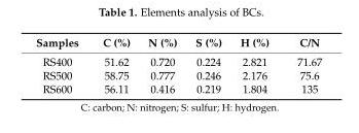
<table><thead><tr><td>Samples</td><td>C (%)</td><td>N (%)</td><td>S (%)</td><td>H (%)</td><td>C/N</td></tr></thead><tbody><tr><td>RS400</td><td>51.62</td><td>0.720</td><td>0.224</td><td>2.821</td><td>71.67</td></tr><tr><td>RS500</td><td>58.75</td><td>0.777</td><td>0.246</td><td>2.176</td><td>75.6</td></tr><tr><td>RS600</td><td>56.11</td><td>0.416</td><td>0.219</td><td>1.804</td><td>135</td></tr></tbody></table>